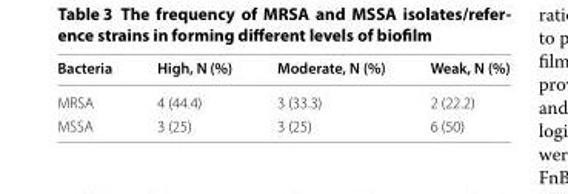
<table><thead><tr><td>Bacteria</td><td>High, N (%)</td><td>Moderate, N (%)</td><td>Weak, N (%)</td></tr></thead><tbody><tr><td>MRSA</td><td>4 (44.4)</td><td>3 (33.3)</td><td>2 (22.2)</td></tr><tr><td>MSSA</td><td>3 (25)</td><td>3 (25)</td><td>6 (50)</td></tr></tbody></table>